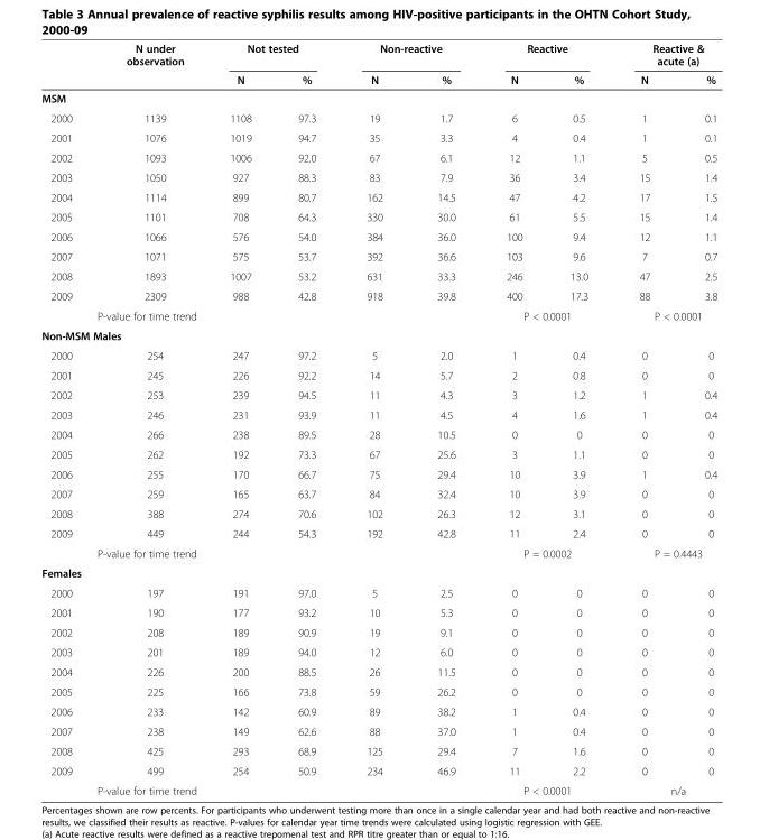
<table><thead><tr><td rowspan="2"></td><td rowspan="2">N under observation</td><td colspan="2">Not tested</td><td colspan="2">Non-reactive</td><td colspan="2">Reactive</td><td colspan="2">Reactive &amp; acute (a)</td></tr><tr><td>N</td><td>%</td><td>N</td><td>%</td><td>N</td><td>%</td><td>N</td><td>%</td></tr></thead><tbody><tr><td colspan="10">MSM</td></tr><tr><td>2000</td><td>1139</td><td>1108</td><td>97.3</td><td>19</td><td>1.7</td><td>6</td><td>0.5</td><td>1</td><td>0.1</td></tr><tr><td>2001</td><td>1076</td><td>1019</td><td>94.7</td><td>35</td><td>3.3</td><td>4</td><td>0.4</td><td>1</td><td>0.1</td></tr><tr><td>2002</td><td>1093</td><td>1006</td><td>92.0</td><td>67</td><td>6.1</td><td>12</td><td>1.1</td><td>5</td><td>0.5</td></tr><tr><td>2003</td><td>1050</td><td>927</td><td>88.3</td><td>83</td><td>7.9</td><td>36</td><td>3.4</td><td>15</td><td>1.4</td></tr><tr><td>2004</td><td>1114</td><td>899</td><td>80.7</td><td>162</td><td>14.5</td><td>47</td><td>4.2</td><td>17</td><td>1.5</td></tr><tr><td>2005</td><td>1101</td><td>708</td><td>64.3</td><td>330</td><td>30.0</td><td>61</td><td>5.5</td><td>15</td><td>1.4</td></tr><tr><td>2006</td><td>1066</td><td>576</td><td>54.0</td><td>384</td><td>36.0</td><td>100</td><td>9.4</td><td>12</td><td>1.1</td></tr><tr><td>2007</td><td>1071</td><td>575</td><td>53.7</td><td>392</td><td>36.6</td><td>103</td><td>9.6</td><td>7</td><td>0.7</td></tr><tr><td>2008</td><td>1893</td><td>1007</td><td>53.2</td><td>631</td><td>33.3</td><td>246</td><td>13.0</td><td>47</td><td>2.5</td></tr><tr><td>2009</td><td>2309</td><td>988</td><td>42.8</td><td>918</td><td>39.8</td><td>400</td><td>17.3</td><td>88</td><td>3.8</td></tr><tr><td colspan="3">P-value for time trend</td><td></td><td></td><td></td><td colspan="2">P &lt; 0.0001</td><td colspan="2">P &lt; 0.0001</td></tr><tr><td colspan="10">Non-MSM Males</td></tr><tr><td>2000</td><td>254</td><td>247</td><td>97.2</td><td>5</td><td>2.0</td><td>1</td><td>0.4</td><td>0</td><td>0</td></tr><tr><td>2001</td><td>245</td><td>226</td><td>92.2</td><td>14</td><td>5.7</td><td>2</td><td>0.8</td><td>0</td><td>0</td></tr><tr><td>2002</td><td>253</td><td>239</td><td>94.5</td><td>11</td><td>4.3</td><td>3</td><td>1.2</td><td>1</td><td>0.4</td></tr><tr><td>2003</td><td>246</td><td>231</td><td>93.9</td><td>11</td><td>4.5</td><td>4</td><td>1.6</td><td>1</td><td>0.4</td></tr><tr><td>2004</td><td>266</td><td>238</td><td>89.5</td><td>28</td><td>10.5</td><td>0</td><td>0</td><td>0</td><td>0</td></tr><tr><td>2005</td><td>262</td><td>192</td><td>73.3</td><td>67</td><td>25.6</td><td>3</td><td>1.1</td><td>0</td><td>0</td></tr><tr><td>2006</td><td>255</td><td>170</td><td>66.7</td><td>75</td><td>29.4</td><td>10</td><td>3.9</td><td>1</td><td>0.4</td></tr><tr><td>2007</td><td>259</td><td>165</td><td>63.7</td><td>84</td><td>32.4</td><td>10</td><td>3.9</td><td>0</td><td>0</td></tr><tr><td>2008</td><td>388</td><td>274</td><td>70.6</td><td>102</td><td>26.3</td><td>12</td><td>3.1</td><td>0</td><td>0</td></tr><tr><td>2009</td><td>449</td><td>244</td><td>54.3</td><td>192</td><td>42.8</td><td>11</td><td>2.4</td><td>0</td><td>0</td></tr><tr><td colspan="3">P-value for time trend</td><td></td><td></td><td></td><td colspan="2">P = 0.0002</td><td colspan="2">P = 0.4443</td></tr><tr><td colspan="10">Females</td></tr><tr><td>2000</td><td>197</td><td>191</td><td>97.0</td><td>5</td><td>2.5</td><td>0</td><td>0</td><td>0</td><td>0</td></tr><tr><td>2001</td><td>190</td><td>177</td><td>93.2</td><td>10</td><td>5.3</td><td>0</td><td>0</td><td>0</td><td>0</td></tr><tr><td>2002</td><td>208</td><td>189</td><td>90.9</td><td>19</td><td>9.1</td><td>0</td><td>0</td><td>0</td><td>0</td></tr><tr><td>2003</td><td>201</td><td>189</td><td>94.0</td><td>12</td><td>6.0</td><td>0</td><td>0</td><td>0</td><td>0</td></tr><tr><td>2004</td><td>226</td><td>200</td><td>88.5</td><td>26</td><td>11.5</td><td>0</td><td>0</td><td>0</td><td>0</td></tr><tr><td>2005</td><td>225</td><td>166</td><td>73.8</td><td>59</td><td>26.2</td><td>0</td><td>0</td><td>0</td><td>0</td></tr><tr><td>2006</td><td>233</td><td>142</td><td>60.9</td><td>89</td><td>38.2</td><td>1</td><td>0.4</td><td>0</td><td>0</td></tr><tr><td>2007</td><td>238</td><td>149</td><td>62.6</td><td>88</td><td>37.0</td><td>1</td><td>0.4</td><td>0</td><td>0</td></tr><tr><td>2008</td><td>425</td><td>293</td><td>68.9</td><td>125</td><td>29.4</td><td>7</td><td>1.6</td><td>0</td><td>0</td></tr><tr><td>2009</td><td>499</td><td>254</td><td>50.9</td><td>234</td><td>46.9</td><td>11</td><td>2.2</td><td>0</td><td>0</td></tr><tr><td colspan="3">P-value for time trend</td><td></td><td></td><td></td><td colspan="2">P &lt; 0.0001</td><td colspan="2">n/a</td></tr></tbody></table>